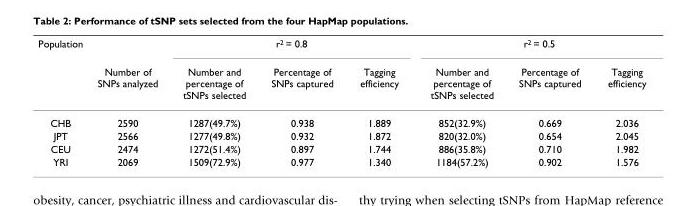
<table><thead><tr><td rowspan="2">Population</td><td rowspan="2">Number of SNPs analyzed</td><td colspan="3">r<sup>2</sup> = 0.8</td><td colspan="3">r<sup>2</sup> = 0.5</td></tr><tr><td>Number and percentage of tSNPs selected</td><td>Percentage of SNPs captured</td><td>Tagging efficiency</td><td>Number and percentage of tSNPs selected</td><td>Percentage of SNPs captured</td><td>Tagging efficiency</td></tr></thead><tbody><tr><td>CHB</td><td>2590</td><td>1287(49.7%)</td><td>0.938</td><td>1.889</td><td>852(32.9%)</td><td>0.669</td><td>2.036</td></tr><tr><td>JPT</td><td>2566</td><td>1277(49.8%)</td><td>0.932</td><td>1.872</td><td>820(32.0%)</td><td>0.654</td><td>2.045</td></tr><tr><td>CEU</td><td>2474</td><td>1272(51.4%)</td><td>0.897</td><td>1.744</td><td>886(35.8%)</td><td>0.710</td><td>1.982</td></tr><tr><td>YRI</td><td>2069</td><td>1509(72.9%)</td><td>0.977</td><td>1.340</td><td>1184(57.2%)</td><td>0.902</td><td>1.576</td></tr></tbody></table>